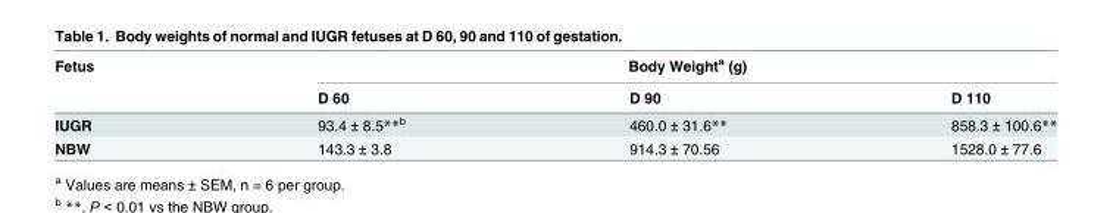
<table><thead><tr><td rowspan="2">Fetus</td><td colspan="3">Body Weight<sup>a</sup> (g)</td></tr><tr><td>D 60</td><td>D 90</td><td>D 110</td></tr></thead><tbody><tr><td>IUGR</td><td>93.4 ± 8.5**<sup>b</sup></td><td>460.0 ± 31.6**</td><td>858.3 ± 100.6**</td></tr><tr><td>NBW</td><td>143.3 ± 3.8</td><td>914.3 ± 70.56</td><td>1528.0 ± 77.6</td></tr></tbody></table>